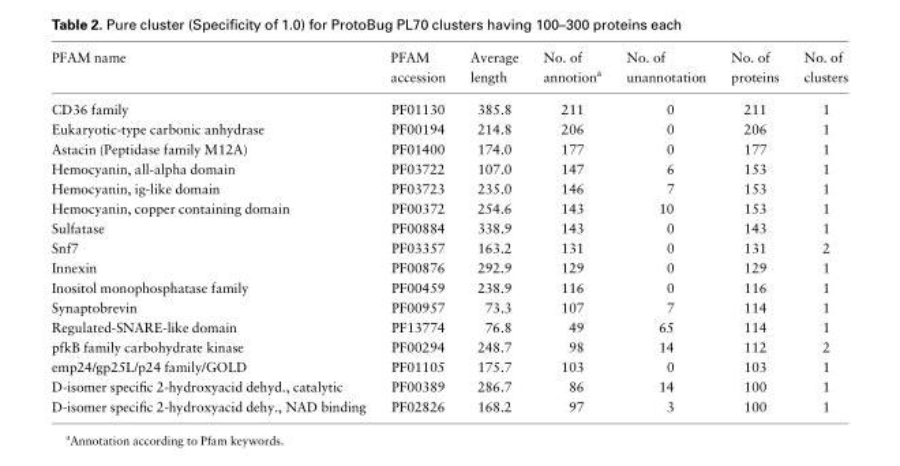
<table><thead><tr><td>PFAM name</td><td>PFAM accession</td><td>Average length</td><td>No. of annotion<sup>a</sup></td><td>No. of unannotation</td><td>No. of proteins</td><td>No. of clusters</td></tr></thead><tbody><tr><td>CD36 family</td><td>PF01130</td><td>385.8</td><td>211</td><td>0</td><td>211</td><td>1</td></tr><tr><td>Eukaryotic-type carbonic anhydrase</td><td>PF00194</td><td>214.8</td><td>206</td><td>0</td><td>206</td><td>1</td></tr><tr><td>Astacin (Peptidase family M12A)</td><td>PF01400</td><td>174.0</td><td>177</td><td>0</td><td>177</td><td>1</td></tr><tr><td>Hemocyanin, all-alpha domain</td><td>PF03722</td><td>107.0</td><td>147</td><td>6</td><td>153</td><td>1</td></tr><tr><td>Hemocyanin, ig-like domain</td><td>PF03723</td><td>235.0</td><td>146</td><td>7</td><td>153</td><td>1</td></tr><tr><td>Hemocyanin, copper containing domain</td><td>PF00372</td><td>254.6</td><td>143</td><td>10</td><td>153</td><td>1</td></tr><tr><td>Sulfatase</td><td>PF00884</td><td>338.9</td><td>143</td><td>0</td><td>143</td><td>1</td></tr><tr><td>Snf7</td><td>PF03357</td><td>163.2</td><td>131</td><td>0</td><td>131</td><td>2</td></tr><tr><td>Innexin</td><td>PF00876</td><td>292.9</td><td>129</td><td>0</td><td>129</td><td>1</td></tr><tr><td>Inositol monophosphatase family</td><td>PF00459</td><td>238.9</td><td>116</td><td>0</td><td>116</td><td>1</td></tr><tr><td>Synaptobrevin</td><td>PF00957</td><td>73.3</td><td>107</td><td>7</td><td>114</td><td>1</td></tr><tr><td>Regulated-SNARE-like domain</td><td>PF13774</td><td>76.8</td><td>49</td><td>65</td><td>114</td><td>1</td></tr><tr><td>pfkB family carbohydrate kinase</td><td>PF00294</td><td>248.7</td><td>98</td><td>14</td><td>112</td><td>2</td></tr><tr><td>emp24/gp25L/p24 family/GOLD</td><td>PF01105</td><td>175.7</td><td>103</td><td>0</td><td>103</td><td>1</td></tr><tr><td>D-isomer specific 2-hydroxyacid dehyd., catalytic</td><td>PF00389</td><td>286.7</td><td>86</td><td>14</td><td>100</td><td>1</td></tr><tr><td>D-isomer specific 2-hydroxyacid dehy., NAD binding</td><td>PF02826</td><td>168.2</td><td>97</td><td>3</td><td>100</td><td>1</td></tr></tbody></table>